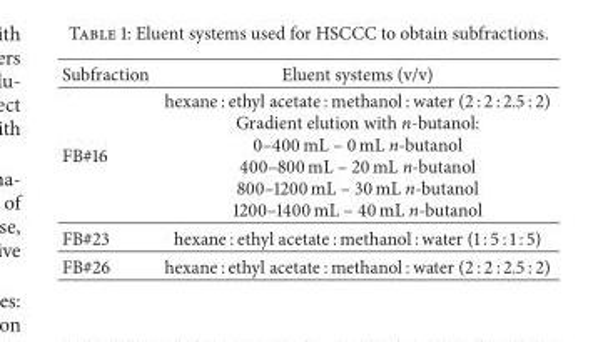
<table><thead><tr><td>Subfraction</td><td>Eluent systems (v/v)</td></tr></thead><tbody><tr><td>FB#16</td><td>hexane : ethyl acetate : methanol : water (2 : 2 : 2.5 : 2) Gradient elution with n-butanol: 0–400 mL – 0 mL n-butanol 400–800 mL – 20 mL n-butanol 800–1200 mL – 30 mL n-butanol 1200–1400 mL – 40 mL n-butanol</td></tr><tr><td>FB#23</td><td>hexane : ethyl acetate : methanol : water (1 : 5 : 1 : 5)</td></tr><tr><td>FB#26</td><td>hexane : ethyl acetate : methanol : water (2 : 2 : 2.5 : 2)</td></tr></tbody></table>